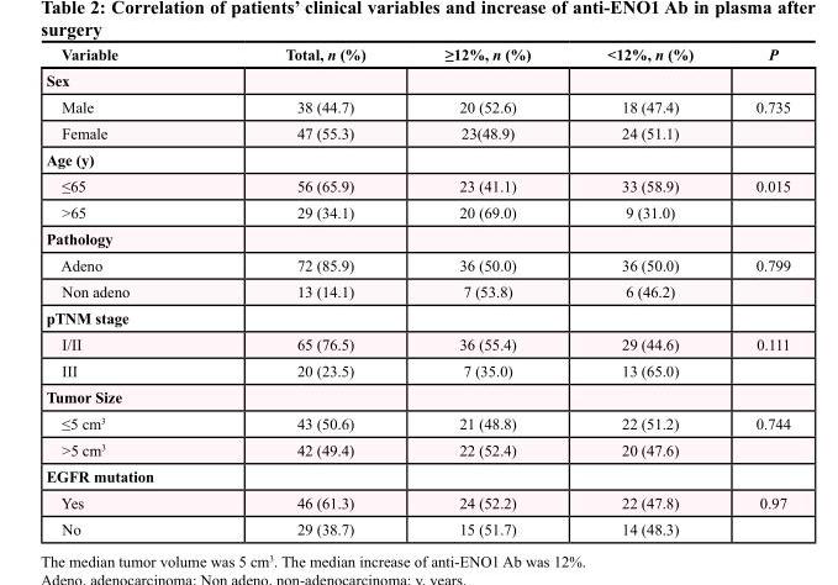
<table><thead><tr><td>Variable</td><td>Total, n (%)</td><td>≥12%, n (%)</td><td>&lt;12%, n (%)</td><td>P</td></tr></thead><tbody><tr><td colspan="5">Sex</td></tr><tr><td>Male</td><td>38 (44.7)</td><td>20 (52.6)</td><td>18 (47.4)</td><td>0.735</td></tr><tr><td>Female</td><td>47 (55.3)</td><td>23(48.9)</td><td>24 (51.1)</td><td></td></tr><tr><td colspan="5">Age (y)</td></tr><tr><td>≤65</td><td>56 (65.9)</td><td>23 (41.1)</td><td>33 (58.9)</td><td>0.015</td></tr><tr><td>&gt;65</td><td>29 (34.1)</td><td>20 (69.0)</td><td>9 (31.0)</td><td></td></tr><tr><td colspan="5">Pathology</td></tr><tr><td>Adeno</td><td>72 (85.9)</td><td>36 (50.0)</td><td>36 (50.0)</td><td>0.799</td></tr><tr><td>Non adeno</td><td>13 (14.1)</td><td>7 (53.8)</td><td>6 (46.2)</td><td></td></tr><tr><td colspan="5">pTNM stage</td></tr><tr><td>I/II</td><td>65 (76.5)</td><td>36 (55.4)</td><td>29 (44.6)</td><td>0.111</td></tr><tr><td>III</td><td>20 (23.5)</td><td>7 (35.0)</td><td>13 (65.0)</td><td></td></tr><tr><td colspan="5">Tumor Size</td></tr><tr><td>≤5 cm<sup>3</sup></td><td>43 (50.6)</td><td>21 (48.8)</td><td>22 (51.2)</td><td>0.744</td></tr><tr><td>&gt;5 cm<sup>3</sup></td><td>42 (49.4)</td><td>22 (52.4)</td><td>20 (47.6)</td><td></td></tr><tr><td colspan="5">EGFR mutation</td></tr><tr><td>Yes</td><td>46 (61.3)</td><td>24 (52.2)</td><td>22 (47.8)</td><td>0.97</td></tr><tr><td>No</td><td>29 (38.7)</td><td>15 (51.7)</td><td>14 (48.3)</td><td></td></tr></tbody></table>